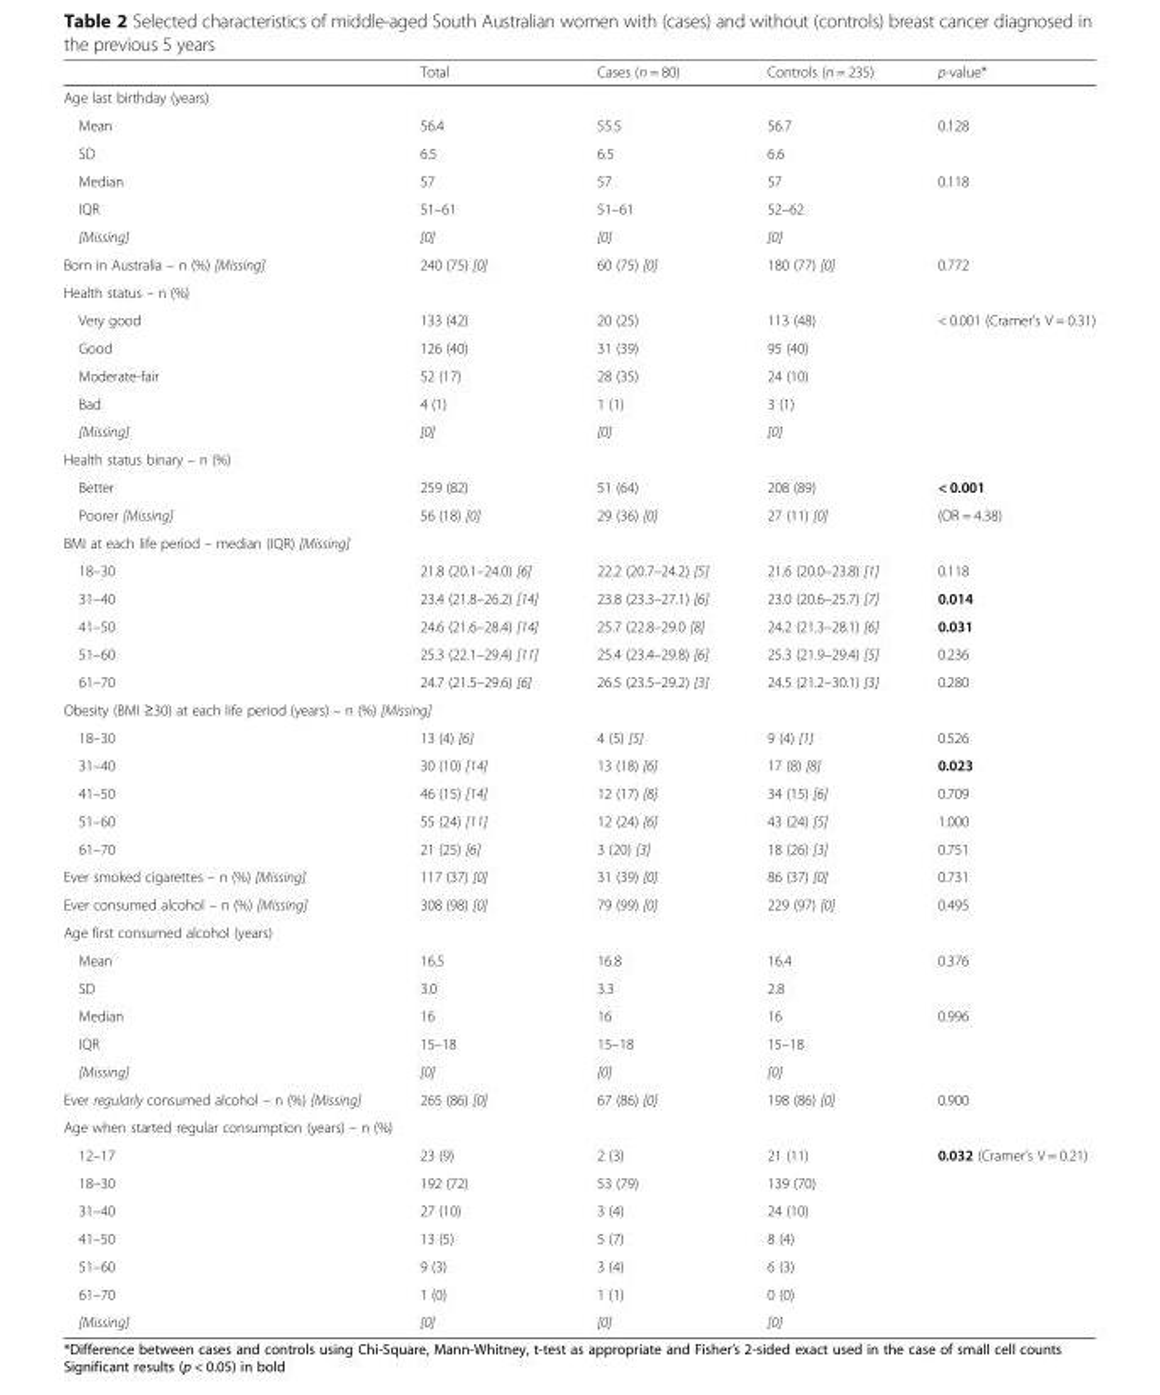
<table><thead><tr><td></td><td>Total</td><td>Cases (n = 80)</td><td>Controls (n = 235)</td><td>p-value*</td></tr></thead><tbody><tr><td colspan="5">Age last birthday (years)</td></tr><tr><td>Mean</td><td>56.4</td><td>55.5</td><td>56.7</td><td>0.128</td></tr><tr><td>SD</td><td>6.5</td><td>6.5</td><td>6.6</td><td></td></tr><tr><td>Median</td><td>57</td><td>57</td><td>57</td><td>0.118</td></tr><tr><td>IQR</td><td>51–61</td><td>51–61</td><td>52–62</td><td></td></tr><tr><td>[Missing]</td><td>[0]</td><td>[0]</td><td>[0]</td><td></td></tr><tr><td>Born in Australia – n (%) [Missing]</td><td>240 (75) [0]</td><td>60 (75) [0]</td><td>180 (77) [0]</td><td>0.772</td></tr><tr><td colspan="5">Health status – n (%)</td></tr><tr><td>Very good</td><td>133 (42)</td><td>20 (25)</td><td>113 (48)</td><td rowspan="3">&lt; 0.001 (Cramer’s V = 0.31)</td></tr><tr><td>Good</td><td>126 (40)</td><td>31 (39)</td><td>95 (40)</td></tr><tr><td>Moderate-fair</td><td>52 (17)</td><td>28 (35)</td><td>24 (10)</td></tr><tr><td>Bad</td><td>4 (1)</td><td>1 (1)</td><td>3 (1)</td><td></td></tr><tr><td>[Missing]</td><td>[0]</td><td>[0]</td><td>[0]</td><td></td></tr><tr><td colspan="5">Health status binary – n (%)</td></tr><tr><td>Better</td><td>259 (82)</td><td>51 (64)</td><td>208 (89)</td><td>&lt; 0.001</td></tr><tr><td>Poorer [Missing]</td><td>56 (18) [0]</td><td>29 (36) [0]</td><td>27 (11) [0]</td><td>(OR = 4.38)</td></tr><tr><td colspan="5">BMI at each life period – median (IQR) [Missing]</td></tr><tr><td>18–30</td><td>21.8 (20.1–24.0) [6]</td><td>22.2 (20.7–24.2) [5]</td><td>21.6 (20.0–23.8) [1]</td><td>0.118</td></tr><tr><td>31–40</td><td>23.4 (21.8–26.2) [14]</td><td>23.8 (23.3–27.1) [6]</td><td>23.0 (20.6–25.7) [7]</td><td>0.014</td></tr><tr><td>41–50</td><td>24.6 (21.6–28.4) [14]</td><td>25.7 (22.8–29.0 [8]</td><td>24.2 (21.3–28.1) [6]</td><td>0.031</td></tr><tr><td>51–60</td><td>25.3 (22.1–29.4) [11]</td><td>25.4 (23.4–29.8) [6]</td><td>25.3 (21.9–29.4) [5]</td><td>0.236</td></tr><tr><td>61–70</td><td>24.7 (21.5–29.6) [6]</td><td>26.5 (23.5–29.2) [3]</td><td>24.5 (21.2–30.1) [3]</td><td>0.280</td></tr><tr><td colspan="5">Obesity (BMI ≥30) at each life period (years) – n (%) [Missing]</td></tr><tr><td>18–30</td><td>13 (4) [6]</td><td>4 (5) [5]</td><td>9 (4) [1]</td><td>0.526</td></tr><tr><td>31–40</td><td>30 (10) [14]</td><td>13 (18) [6]</td><td>17 (8) [8]</td><td>0.023</td></tr><tr><td>41–50</td><td>46 (15) [14]</td><td>12 (17) [8]</td><td>34 (15) [6]</td><td>0.709</td></tr><tr><td>51–60</td><td>55 (24) [11]</td><td>12 (24) [6]</td><td>43 (24) [5]</td><td>1.000</td></tr><tr><td>61–70</td><td>21 (25) [6]</td><td>3 (20) [3]</td><td>18 (26) [3]</td><td>0.751</td></tr><tr><td>Ever smoked cigarettes – n (%) [Missing]</td><td>117 (37) [0]</td><td>31 (39) [0]</td><td>86 (37) [0]</td><td>0.731</td></tr><tr><td>Ever consumed alcohol – n (%) [Missing]</td><td>308 (98) [0]</td><td>79 (99) [0]</td><td>229 (97) [0]</td><td>0.495</td></tr><tr><td colspan="5">Age first consumed alcohol (years)</td></tr><tr><td>Mean</td><td>16.5</td><td>16.8</td><td>16.4</td><td>0.376</td></tr><tr><td>SD</td><td>3.0</td><td>3.3</td><td>2.8</td><td></td></tr><tr><td>Median</td><td>16</td><td>16</td><td>16</td><td>0.996</td></tr><tr><td>IQR</td><td>15–18</td><td>15–18</td><td>15–18</td><td></td></tr><tr><td>[Missing]</td><td>[0]</td><td>[0]</td><td>[0]</td><td></td></tr><tr><td>Ever regularly consumed alcohol – n (%) [Missing]</td><td>265 (86) [0]</td><td>67 (86) [0]</td><td>198 (86) [0]</td><td>0.900</td></tr><tr><td colspan="5">Age when started regular consumption (years) – n (%)</td></tr><tr><td>12–17</td><td>23 (9)</td><td>2 (3)</td><td>21 (11)</td><td rowspan="3">0.032 (Cramer’s V = 0.21)</td></tr><tr><td>18–30</td><td>192 (72)</td><td>53 (79)</td><td>139 (70)</td></tr><tr><td>31–40</td><td>27 (10)</td><td>3 (4)</td><td>24 (10)</td></tr><tr><td>41–50</td><td>13 (5)</td><td>5 (7)</td><td>8 (4)</td><td></td></tr><tr><td>51–60</td><td>9 (3)</td><td>3 (4)</td><td>6 (3)</td><td></td></tr><tr><td>61–70</td><td>1 (0)</td><td>1 (1)</td><td>0 (0)</td><td></td></tr><tr><td>[Missing]</td><td>[0]</td><td>[0]</td><td>[0]</td><td></td></tr></tbody></table>